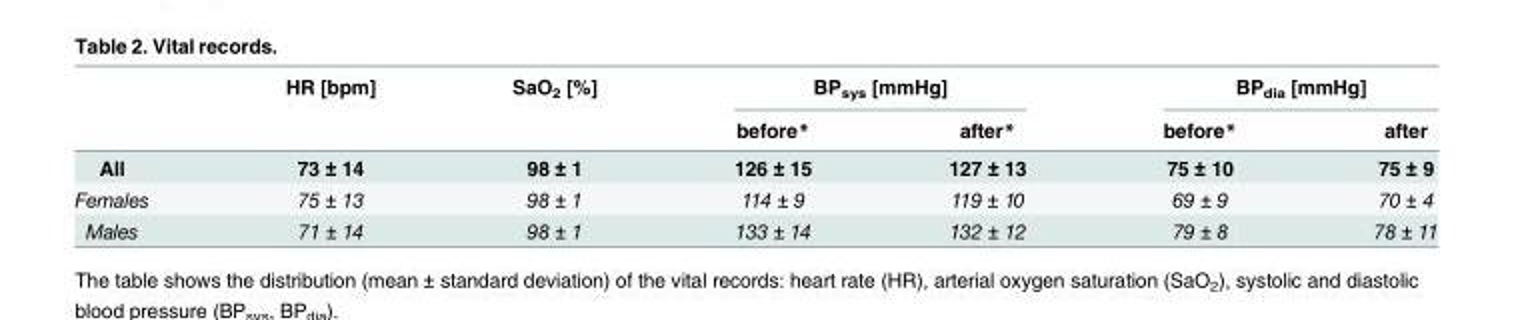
<table><thead><tr><td rowspan="2"></td><td rowspan="2">HR [bpm]</td><td rowspan="2">SaO<sub>2</sub> [%]</td><td colspan="2">BP<sub>sys</sub> [mmHg]</td><td colspan="2">BP<sub>dia</sub> [mmHg]</td></tr><tr><td>before*</td><td>after*</td><td>before*</td><td>after</td></tr></thead><tbody><tr><td>All</td><td>73 ± 14</td><td>98 ± 1</td><td>126 ± 15</td><td>127 ± 13</td><td>75 ± 10</td><td>75 ± 9</td></tr><tr><td>Females</td><td>75 ± 13</td><td>98 ± 1</td><td>114 ± 9</td><td>119 ± 10</td><td>69 ± 9</td><td>70 ± 4</td></tr><tr><td>Males</td><td>71 ± 14</td><td>98 ± 1</td><td>133 ± 14</td><td>132 ± 12</td><td>79 ± 8</td><td>78 ± 11</td></tr></tbody></table>